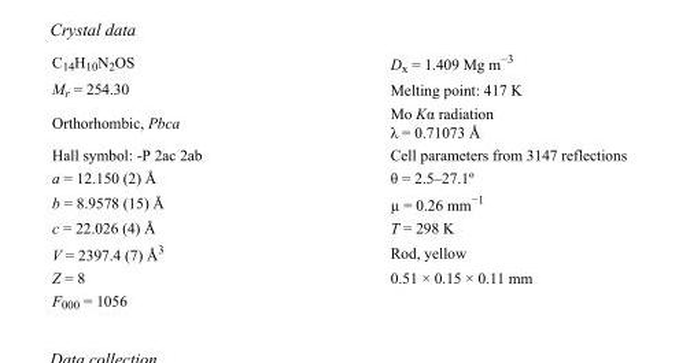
<table><tbody><tr><td>C<sub>14</sub>H<sub>10</sub>N<sub>2</sub>OS</td><td>D<sub>x</sub> = 1.409 Mg m<sup>−3</sup></td></tr><tr><td>M<sub>r</sub> = 254.30</td><td>Melting point: 417 K</td></tr><tr><td>Orthorhombic, Pbca</td><td>Mo Kα radiation λ = 0.71073 Å</td></tr><tr><td>Hall symbol: -P 2ac 2ab</td><td>Cell parameters from 3147 reflections</td></tr><tr><td>a = 12.150 (2) Å</td><td>θ = 2.5–27.1º</td></tr><tr><td>b = 8.9578 (15) Å</td><td>µ = 0.26 mm<sup>−1</sup></td></tr><tr><td>c = 22.026 (4) Å</td><td>T = 298 K</td></tr><tr><td>V = 2397.4 (7) Å<sup>3</sup></td><td>Rod, yellow</td></tr><tr><td>Z = 8</td><td>0.51 × 0.15 × 0.11 mm</td></tr><tr><td>F000 = 1056</td><td></td></tr></tbody></table>